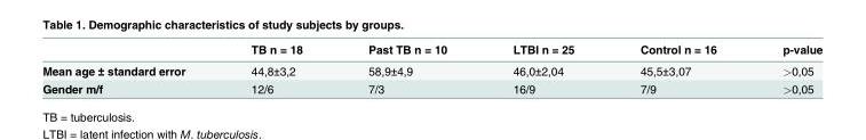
<table><thead><tr><td></td><td>TB n = 18</td><td>Past TB n = 10</td><td>LTBI n = 25</td><td>Control n = 16</td><td>p-value</td></tr></thead><tbody><tr><td>Mean age ± standard error</td><td>44,8±3,2</td><td>58,9±4,9</td><td>46,0±2,04</td><td>45,5±3,07</td><td>&gt;0,05</td></tr><tr><td>Gender m/f</td><td>12/6</td><td>7/3</td><td>16/9</td><td>7/9</td><td>&gt;0,05</td></tr></tbody></table>